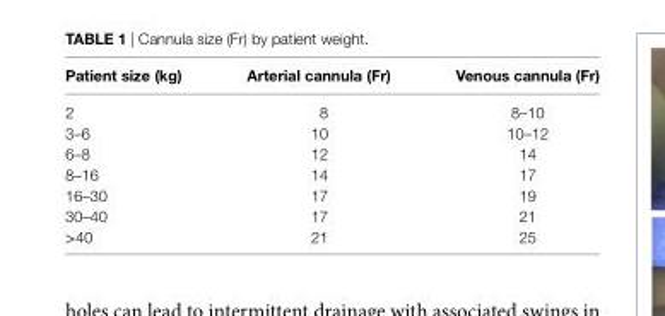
<table><thead><tr><td>Patient size (kg)</td><td>Arterial cannula (Fr)</td><td>venous cannula (Fr)</td></tr></thead><tbody><tr><td>2</td><td>8</td><td>8–10</td></tr><tr><td>3–6</td><td>10</td><td>10–12</td></tr><tr><td>6–8</td><td>12</td><td>14</td></tr><tr><td>8–16</td><td>14</td><td>17</td></tr><tr><td>16–30</td><td>17</td><td>19</td></tr><tr><td>30–40</td><td>17</td><td>21</td></tr><tr><td>&gt;40</td><td>21</td><td>25</td></tr></tbody></table>